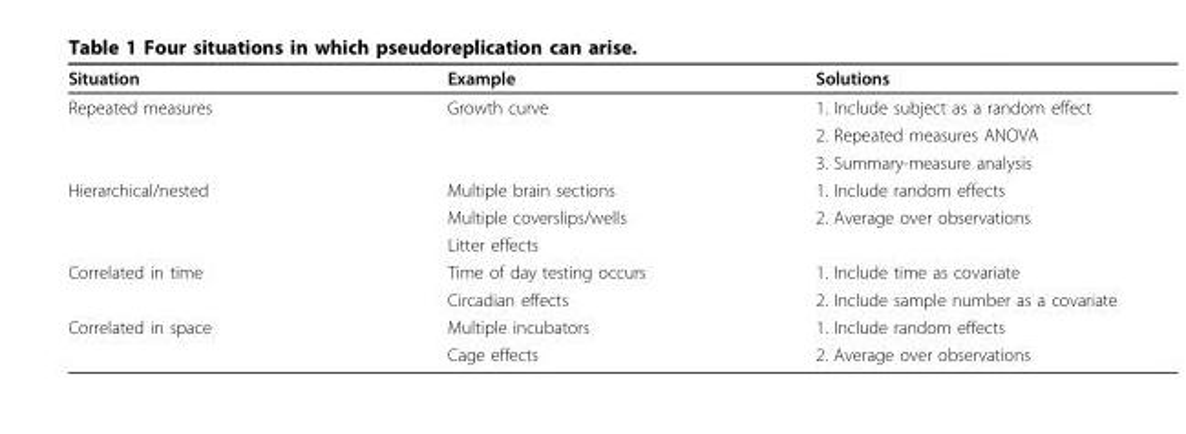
<table><thead><tr><td>Situation</td><td>Example</td><td>Solutions</td></tr></thead><tbody><tr><td rowspan="3">Repeated measures</td><td>Growth curve</td><td>1. Include subject as a random effect</td></tr><tr><td></td><td>2. Repeated measures ANOVA</td></tr><tr><td></td><td>3. Summary-measure analysis</td></tr><tr><td rowspan="3">Hierarchical/nested</td><td>Multiple brain sections</td><td>1. Include random effects</td></tr><tr><td>Multiple coverslips/wells</td><td>2. Average over observations</td></tr><tr><td>Litter effects</td><td></td></tr><tr><td rowspan="2">Correlated in time</td><td>Time of day testing occurs</td><td>1. Include time as covariate</td></tr><tr><td>Circadian effects</td><td>2. Include sample number as a covariate</td></tr><tr><td rowspan="2">Correlated in space</td><td>Multiple incubators</td><td>1. Include random effects</td></tr><tr><td>Cage effects</td><td>2. Average over observations</td></tr></tbody></table>